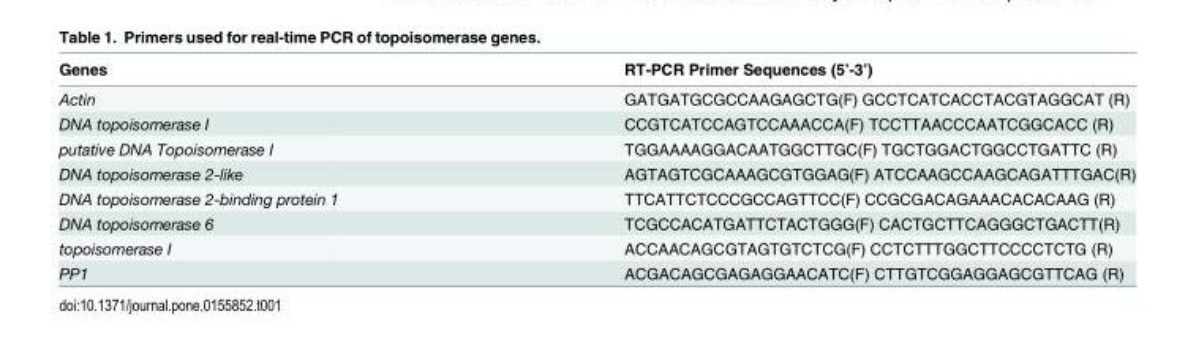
<table><thead><tr><td>Genes</td><td>RT-PCR Primer Sequences (5’-3’)</td></tr></thead><tbody><tr><td>Actin</td><td>GATGATGCGCCAAGAGCTG(F) GCCTCATCACCTACGTAGGCAT (R)</td></tr><tr><td>DNA topoisomerase I</td><td>CCGTCATCCAGTCCAAACCA(F) TCCTTAACCCAATCGGCACC (R)</td></tr><tr><td>putative DNA Topoisomerase I</td><td>TGGAAAAGGACAATGGCTTGC(F) TGCTGGACTGGCCTGATTC (R)</td></tr><tr><td>DNA topoisomerase 2-like</td><td>AGTAGTCGCAAAGCGTGGAG(F) ATCCAAGCCAAGCAGATTTGAC(R)</td></tr><tr><td>DNA topoisomerase 2-binding protein 1</td><td>TTCATTCTCCCGCCAGTTCC(F) CCGCGACAGAAACACACAAG (R)</td></tr><tr><td>DNA topoisomerase 6</td><td>TCGCCACATGATTCTACTGGG(F) CACTGCTTCAGGGCTGACTT(R)</td></tr><tr><td>topoisomerase I</td><td>ACCAACAGCGTAGTGTCTCG(F) CCTCTTTGGCTTCCCCTCTG (R)</td></tr><tr><td>PP1</td><td>ACGACAGCGAGAGGAACATC(F) CTTGTCGGAGGAGCGTTCAG (R)</td></tr></tbody></table>